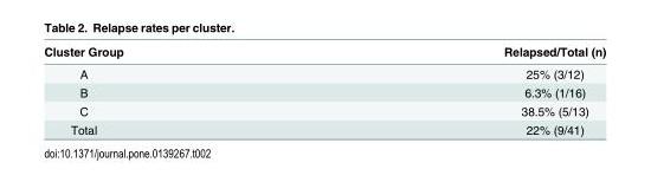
<table><thead><tr><td>Cluster Group</td><td>Relapsed/Total (n)</td></tr></thead><tbody><tr><td>A</td><td>25% (3/12)</td></tr><tr><td>B</td><td>6.3% (1/16)</td></tr><tr><td>C</td><td>38.5% (5/13)</td></tr><tr><td>Total</td><td>22% (9/41)</td></tr></tbody></table>